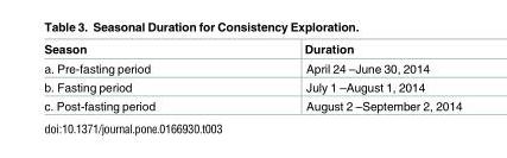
<table><thead><tr><td>Season</td><td>Duration</td></tr></thead><tbody><tr><td>a. Pre-fasting period</td><td>April 24 –June 30, 2014</td></tr><tr><td>b. Fasting period</td><td>July 1 –August 1, 2014</td></tr><tr><td>c. Post-fasting period</td><td>August 2 –September 2, 2014</td></tr></tbody></table>